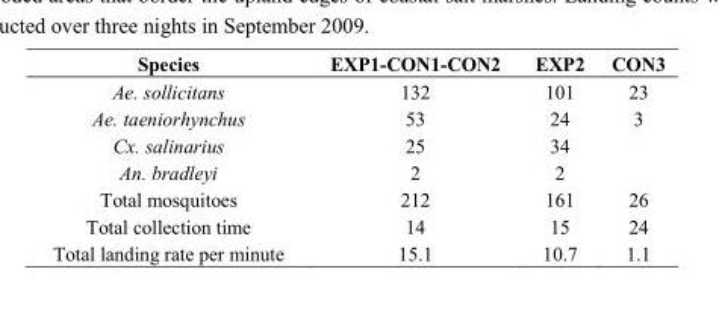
<table><thead><tr><td>Species</td><td>EXP1-CON1-CON2</td><td>EXP2</td><td>CON3</td></tr></thead><tbody><tr><td>Ae. sollicitans</td><td>132</td><td>101</td><td>23</td></tr><tr><td>Ae. taeniorhynchus</td><td>53</td><td>24</td><td>3</td></tr><tr><td>Cx. salinarius</td><td>25</td><td>34</td><td></td></tr><tr><td>An. bradleyi</td><td>2</td><td>2</td><td></td></tr><tr><td>Total mosquitoes</td><td>212</td><td>161</td><td>26</td></tr><tr><td>Total collection time</td><td>14</td><td>15</td><td>24</td></tr><tr><td>Total landing rate per minute</td><td>15.1</td><td>10.7</td><td>1.1</td></tr></tbody></table>